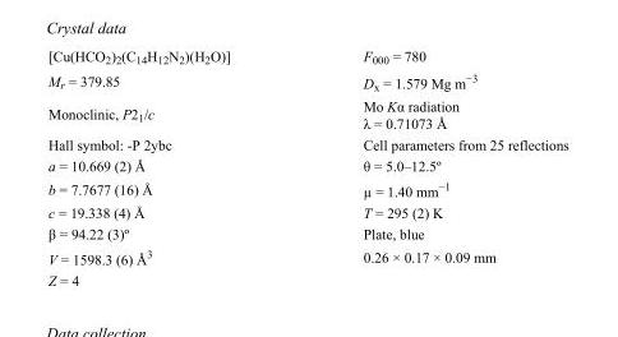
<table><tbody><tr><td>[Cu(HCO<sub>2</sub>)<sub>2</sub>(C<sub>14</sub>H<sub>12</sub>N<sub>2</sub>)(H<sub>2</sub>O)]</td><td>F<sub>000</sub> = 780</td></tr><tr><td>M<sub>r</sub> = 379.85</td><td>D<sub>x</sub> = 1.579 Mg m<sup>−3</sup></td></tr><tr><td>Monoclinic, P2<sub>1</sub>/c</td><td>Mo Kα radiation λ = 0.71073 Å</td></tr><tr><td>Hall symbol: -P 2ybc</td><td>Cell parameters from 25 reflections</td></tr><tr><td>a = 10.669 (2) Å</td><td>θ = 5.0–12.5º</td></tr><tr><td>b = 7.7677 (16) Å</td><td>µ = 1.40 mm<sup>−1</sup></td></tr><tr><td>c = 19.338 (4) Å</td><td>T = 295 (2) K</td></tr><tr><td>β = 94.22 (3)º</td><td>Plate, blue</td></tr><tr><td>V = 1598.3 (6) Å<sup>3</sup></td><td>0.26 × 0.17 × 0.09 mm</td></tr><tr><td>Z = 4</td><td></td></tr></tbody></table>